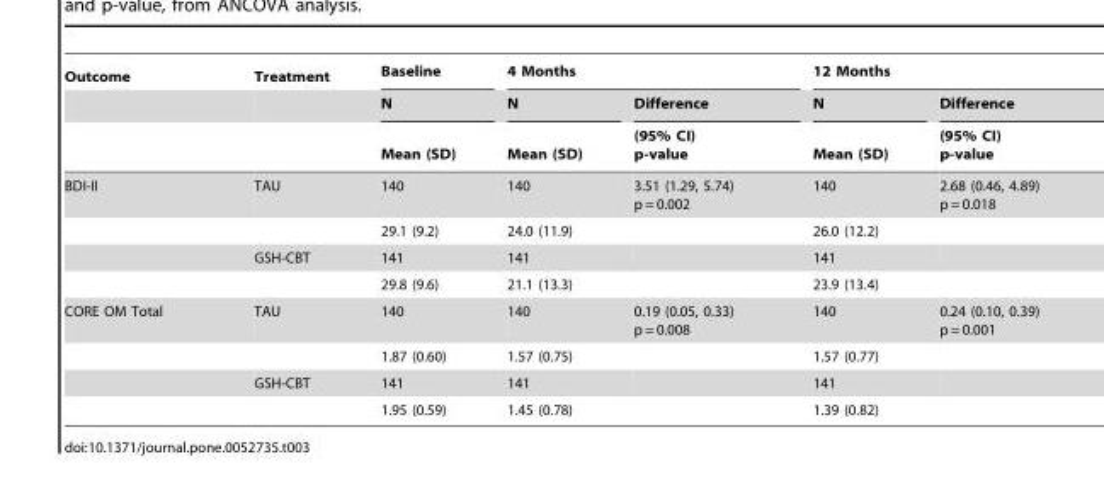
<table><thead><tr><td rowspan="3">Outcome</td><td rowspan="3">Treatment</td><td rowspan="3">Baseline N Mean (SD)</td><td colspan="2">4 Months</td><td colspan="2">12 Months</td></tr><tr><td rowspan="2">N Mean (SD)</td><td rowspan="2">Difference (95% CI) p-value</td><td rowspan="2">N Mean (SD)</td><td rowspan="2">Difference (95% CI) p-value</td></tr><tr></tr></thead><tbody><tr><td rowspan="4">BDI-II</td><td>TAU</td><td>140</td><td>140</td><td>3.51 (1.29, 5.74) p = 0.002</td><td>140</td><td>2.68 (0.46, 4.89) p = 0.018</td></tr><tr><td></td><td>29.1 (9.2)</td><td>24.0 (11.9)</td><td></td><td>26.0 (12.2)</td><td></td></tr><tr><td>GSH-CBT</td><td>141</td><td>141</td><td></td><td>141</td><td></td></tr><tr><td></td><td>29.8 (9.6)</td><td>21.1 (13.3)</td><td></td><td>23.9 (13.4)</td><td></td></tr><tr><td rowspan="4">CORE OM Total</td><td>TAU</td><td>140</td><td>140</td><td>0.19 (0.05, 0.33) p = 0.008</td><td>140</td><td>0.24 (0.10, 0.39) p = 0.001</td></tr><tr><td></td><td>1.87 (0.60)</td><td>1.57 (0.75)</td><td></td><td>1.57 (0.77)</td><td></td></tr><tr><td>GSH-CBT</td><td>141</td><td>141</td><td></td><td>141</td><td></td></tr><tr><td></td><td>1.95 (0.59)</td><td>1.45 (0.78)</td><td></td><td>1.39 (0.82)</td><td></td></tr></tbody></table>